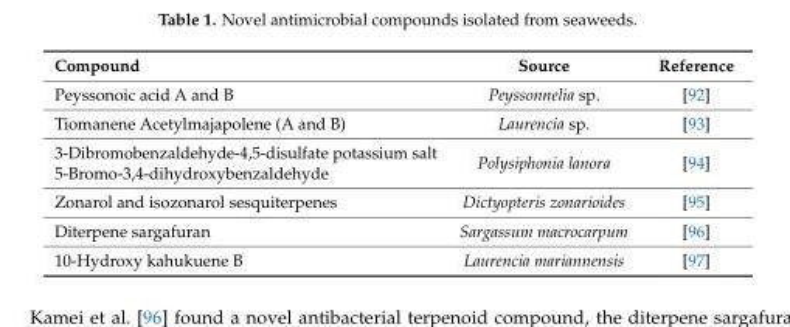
<table><thead><tr><td>Compound</td><td>Source</td><td>Reference</td></tr></thead><tbody><tr><td>Peyssonoic acid A and B</td><td>Peyssonnelia sp.</td><td>[92]</td></tr><tr><td>Tiomanene Acetylmajapolene (A and B)</td><td>Laurencia sp.</td><td>[93]</td></tr><tr><td>3-Dibromobenzaldehyde-4,5-disulfate potassium salt 5-Bromo-3,4-dihydroxybenzaldehyde</td><td>Polysiphonia lanora</td><td>[94]</td></tr><tr><td>Zonarol and isozonarol sesquiterpenes</td><td>Dictyopteris zonarioides</td><td>[95]</td></tr><tr><td>Diterpene sargafuran</td><td>Sargassum macrocarpum</td><td>[96]</td></tr><tr><td>10-Hydroxy kahukuene B</td><td>Laurencia mariannensis</td><td>[97]</td></tr></tbody></table>